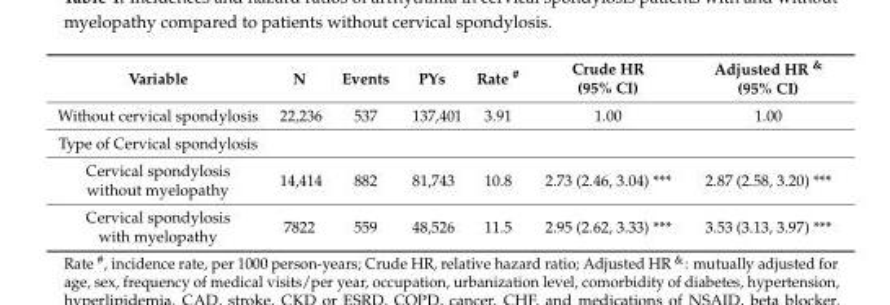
<table><thead><tr><td>Variable</td><td>N</td><td>Events</td><td>PYs</td><td>Rate <sup>#</sup></td><td>Crude HR (95% CI)</td><td>Adjusted HR <sup>&amp;</sup> (95% CI)</td></tr></thead><tbody><tr><td>Without cervical spondylosis</td><td>22,236</td><td>537</td><td>137,401</td><td>3.91</td><td>1.00</td><td>1.00</td></tr><tr><td colspan="7">Type of Cervical spondylosis</td></tr><tr><td>Cervical spondylosis without myelopathy</td><td>14,414</td><td>882</td><td>81,743</td><td>10.8</td><td>2.73 (2.46, 3.04) ***</td><td>2.87 (2.58, 3.20) ***</td></tr><tr><td>Cervical spondylosis with myelopathy</td><td>7822</td><td>559</td><td>48,526</td><td>11.5</td><td>2.95 (2.62, 3.33) ***</td><td>3.53 (3.13, 3.97) ***</td></tr></tbody></table>